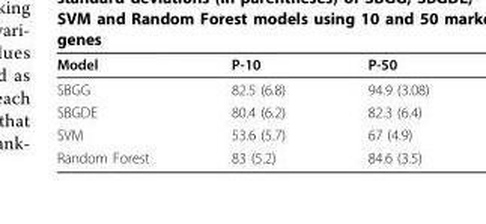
<table><thead><tr><td>Model</td><td>P-10</td><td>P-50</td></tr></thead><tbody><tr><td>SBGG</td><td>82.5 (6.8)</td><td>94.9 (3.08)</td></tr><tr><td>SBGDE</td><td>80.4 (6.2)</td><td>82.3 (6.4)</td></tr><tr><td>SVM</td><td>53.6 (5.7)</td><td>67 (4.9)</td></tr><tr><td>Random Forest</td><td>83 (5.2)</td><td>84.6 (3.5)</td></tr></tbody></table>